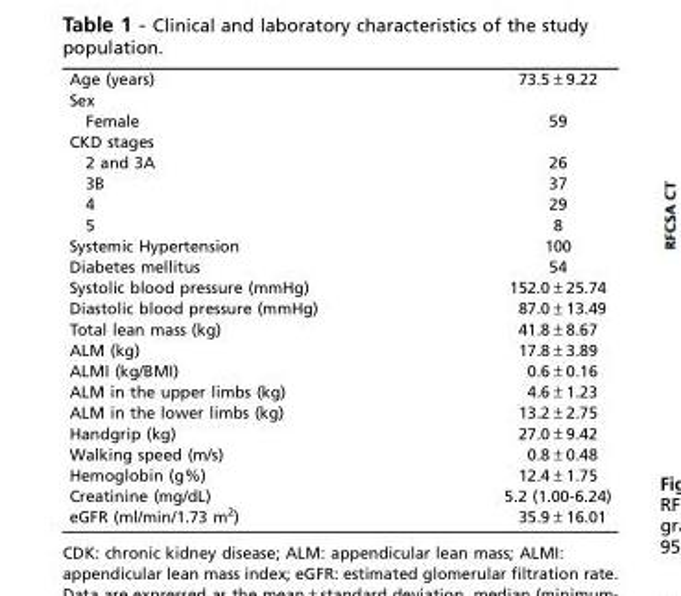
<table><tbody><tr><td>Age (years)</td><td>73.5±9.22</td></tr><tr><td colspan="2">Sex</td></tr><tr><td>Female</td><td>59</td></tr><tr><td colspan="2">CKD stages</td></tr><tr><td>2 and 3A</td><td>26</td></tr><tr><td>3B</td><td>37</td></tr><tr><td>4</td><td>29</td></tr><tr><td>5</td><td>8</td></tr><tr><td>Systemic Hypertension</td><td>100</td></tr><tr><td>Diabetes mellitus</td><td>54</td></tr><tr><td>Systolic blood pressure (mmHg)</td><td>152.0±25.74</td></tr><tr><td>Diastolic blood pressure (mmHg)</td><td>87.0±13.49</td></tr><tr><td>Total lean mass (kg)</td><td>41.8±8.67</td></tr><tr><td>ALM (kg)</td><td>17.8±3.89</td></tr><tr><td>ALMI (kg/BMI)</td><td>0.6±0.16</td></tr><tr><td>ALM in the upper limbs (kg)</td><td>4.6±1.23</td></tr><tr><td>ALM in the lower limbs (kg)</td><td>13.2±2.75</td></tr><tr><td>Handgrip (kg)</td><td>27.0±9.42</td></tr><tr><td>Walking speed (m/s)</td><td>0.8±0.48</td></tr><tr><td>Hemoglobin (g%)</td><td>12.4±1.75</td></tr><tr><td>Creatinine (mg/dL)</td><td>5.2 (1.00-6.24)</td></tr><tr><td>eGFR (ml/min/1.73 m<sup>2</sup>)</td><td>35.9±16.01</td></tr></tbody></table>